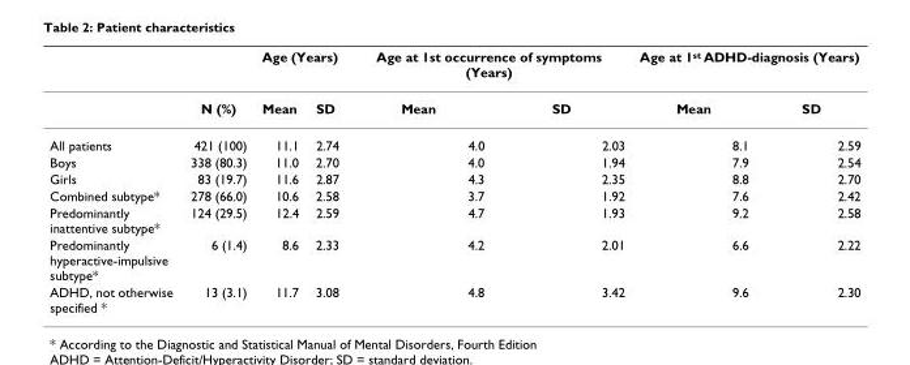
<table><thead><tr><td rowspan="2"></td><td rowspan="2">N (%)</td><td colspan="2">Age (Years)</td><td colspan="2">Age at 1st occurrence of symptoms (Years)</td><td colspan="2">Age at 1<sup>st</sup> ADHD-diagnosis (Years)</td></tr><tr><td>Mean</td><td>SD</td><td>Mean</td><td>SD</td><td>Mean</td><td>SD</td></tr></thead><tbody><tr><td>All patients</td><td>421 (100)</td><td>11.1</td><td>2.74</td><td>4.0</td><td>2.03</td><td>8.1</td><td>2.59</td></tr><tr><td>Boys</td><td>338 (80.3)</td><td>11.0</td><td>2.70</td><td>4.0</td><td>1.94</td><td>7.9</td><td>2.54</td></tr><tr><td>Girls</td><td>83 (19.7)</td><td>11.6</td><td>2.87</td><td>4.3</td><td>2.35</td><td>8.8</td><td>2.70</td></tr><tr><td>Combined subtype*</td><td>278 (66.0)</td><td>10.6</td><td>2.58</td><td>3.7</td><td>1.92</td><td>7.6</td><td>2.42</td></tr><tr><td>Predominantly inattentive subtype*</td><td>124 (29.5)</td><td>12.4</td><td>2.59</td><td>4.7</td><td>1.93</td><td>9.2</td><td>2.58</td></tr><tr><td>Predominantly hyperactive-impulsive subtype*</td><td>6 (1.4)</td><td>8.6</td><td>2.33</td><td>4.2</td><td>2.01</td><td>6.6</td><td>2.22</td></tr><tr><td>ADHD, not otherwise specified *</td><td>13 (3.1)</td><td>11.7</td><td>3.08</td><td>4.8</td><td>3.42</td><td>9.6</td><td>2.30</td></tr></tbody></table>